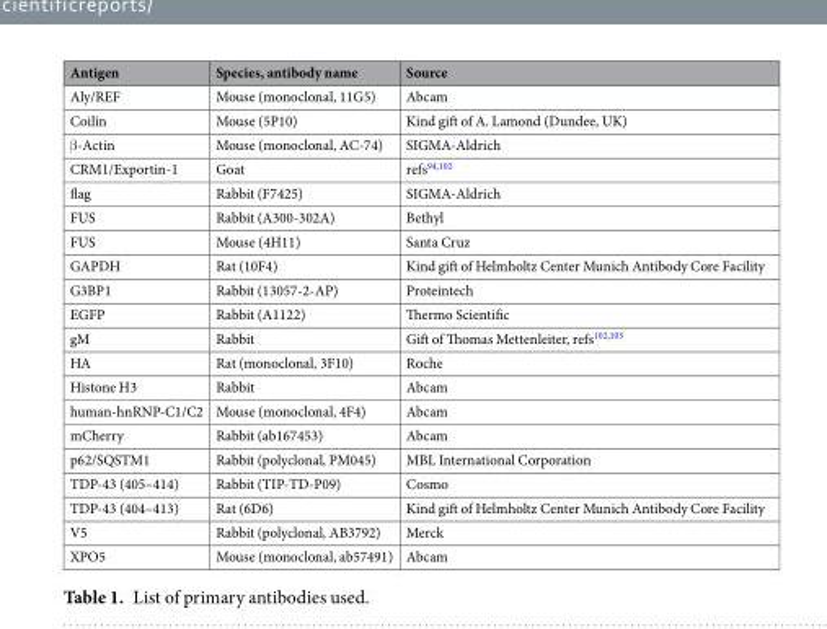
<table><thead><tr><td>Antigen</td><td>Species, antibody name</td><td>Source</td></tr></thead><tbody><tr><td>Aly/REF</td><td>Mouse (monoclonal, 11G5)</td><td>Abcam</td></tr><tr><td>Coilin</td><td>Mouse (5P10)</td><td>Kind gift of A. Lamond (Dundee, UK)</td></tr><tr><td>β-Actin</td><td>Mouse (monoclonal, AC-74)</td><td>SIGMA-Aldrich</td></tr><tr><td>CRM1/Exportin-1</td><td>Goat</td><td>refs<sup>94,102</sup></td></tr><tr><td>flag</td><td>Rabbit (F7425)</td><td>SIGMA-Aldrich</td></tr><tr><td>FUS</td><td>Rabbit (A300-302A)</td><td>Bethyl</td></tr><tr><td>FUS</td><td>Mouse (4H11)</td><td>Santa Cruz</td></tr><tr><td>GAPDH</td><td>Rat (10F4)</td><td>Kind gift of Helmholtz Center Munich Antibody Core Facility</td></tr><tr><td>G3BP1</td><td>Rabbit (13057-2-AP)</td><td>Proteintech</td></tr><tr><td>EGFP</td><td>Rabbit (A1122)</td><td>Thermo Scientific</td></tr><tr><td>gM</td><td>Rabbit</td><td>Gift of Thomas Mettenleiter, refs<sup>102,103</sup></td></tr><tr><td>HA</td><td>Rat (monoclonal, 3F10)</td><td>Roche</td></tr><tr><td>Histone H3</td><td>Rabbit</td><td>Abcam</td></tr><tr><td>human-hnRNP-C1/C2</td><td>Mouse (monoclonal, 4F4)</td><td>Abcam</td></tr><tr><td>mCherry</td><td>Rabbit (ab167453)</td><td>Abcam</td></tr><tr><td>p62/SQSTM1</td><td>Rabbit (polyclonal, PM045)</td><td>MBL International Corporation</td></tr><tr><td>TDP-43 (405–414)</td><td>Rabbit (TIP-TD-P09)</td><td>Cosmo</td></tr><tr><td>TDP-43 (404–413)</td><td>Rat (6D6)</td><td>Kind gift of Helmholtz Center Munich Antibody Core Facility</td></tr><tr><td>V5</td><td>Rabbit (polyclonal, AB3792)</td><td>Merck</td></tr><tr><td>XPO5</td><td>Mouse (monoclonal, ab57491)</td><td>Abcam</td></tr></tbody></table>